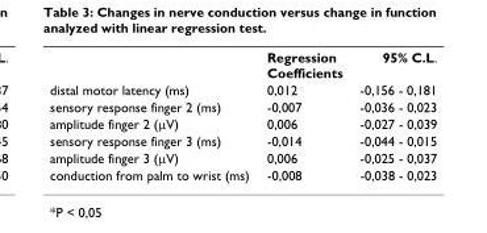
<table><thead><tr><td></td><td>Regression Coefficients</td><td>95% C.L.</td></tr></thead><tbody><tr><td>distal motor latency (ms)</td><td>0,012</td><td>-0,156 - 0,181</td></tr><tr><td>sensory response finger 2 (ms)</td><td>-0,007</td><td>-0,036 - 0,023</td></tr><tr><td>amplitude finger 2 (μV)</td><td>0,006</td><td>-0,027 - 0,039</td></tr><tr><td>sensory response finger 3 (ms)</td><td>-0,014</td><td>-0,044 - 0,015</td></tr><tr><td>amplitude finger 3 (μV)</td><td>0,006</td><td>-0,025 - 0,037</td></tr><tr><td>conduction from palm to wrist (ms)</td><td>-0,008</td><td>-0,038 - 0,023</td></tr></tbody></table>